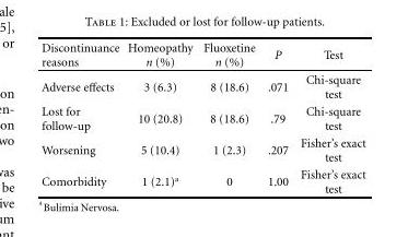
<table><thead><tr><td>Discontinuance reasons</td><td>Homeopathy n (%)</td><td>Fluoxetine n (%)</td><td>P</td><td>Test</td></tr></thead><tbody><tr><td>Adverse effects</td><td>3 (6.3)</td><td>8 (18.6)</td><td>.071</td><td>Chi-square test</td></tr><tr><td>Lost for follow-up</td><td>10 (20.8)</td><td>8 (18.6)</td><td>.79</td><td>Chi-square test</td></tr><tr><td>Worsening</td><td>5 (10.4)</td><td>1 (2.3)</td><td>.207</td><td>Fisher’s exact test</td></tr><tr><td>Comorbidity</td><td>1 (2.1)<sup>a</sup></td><td>0</td><td>1.00</td><td>Fisher’s exact test</td></tr></tbody></table>